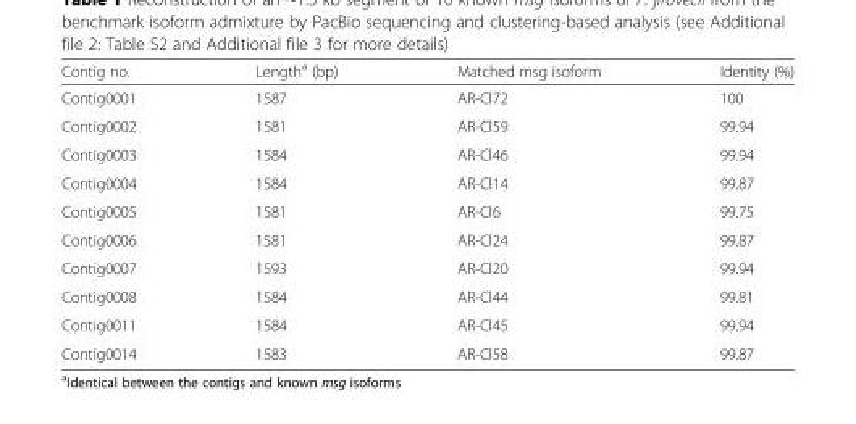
<table><thead><tr><td>Contig no.</td><td>Length<sup>a</sup> (bp)</td><td>Matched msg isoform</td><td>Identity (%)</td></tr></thead><tbody><tr><td>Contig0001</td><td>1587</td><td>AR-Cl72</td><td>100</td></tr><tr><td>Contig0002</td><td>1581</td><td>AR-Cl59</td><td>99.94</td></tr><tr><td>Contig0003</td><td>1584</td><td>AR-Cl46</td><td>99.94</td></tr><tr><td>Contig0004</td><td>1584</td><td>AR-Cl14</td><td>99.87</td></tr><tr><td>Contig0005</td><td>1581</td><td>AR-Cl6</td><td>99.75</td></tr><tr><td>Contig0006</td><td>1581</td><td>AR-Cl24</td><td>99.87</td></tr><tr><td>Contig0007</td><td>1593</td><td>AR-Cl20</td><td>99.94</td></tr><tr><td>Contig0008</td><td>1584</td><td>AR-Cl44</td><td>99.81</td></tr><tr><td>Contig0011</td><td>1584</td><td>AR-Cl45</td><td>99.94</td></tr><tr><td>Contig0014</td><td>1583</td><td>AR-Cl58</td><td>99.87</td></tr></tbody></table>